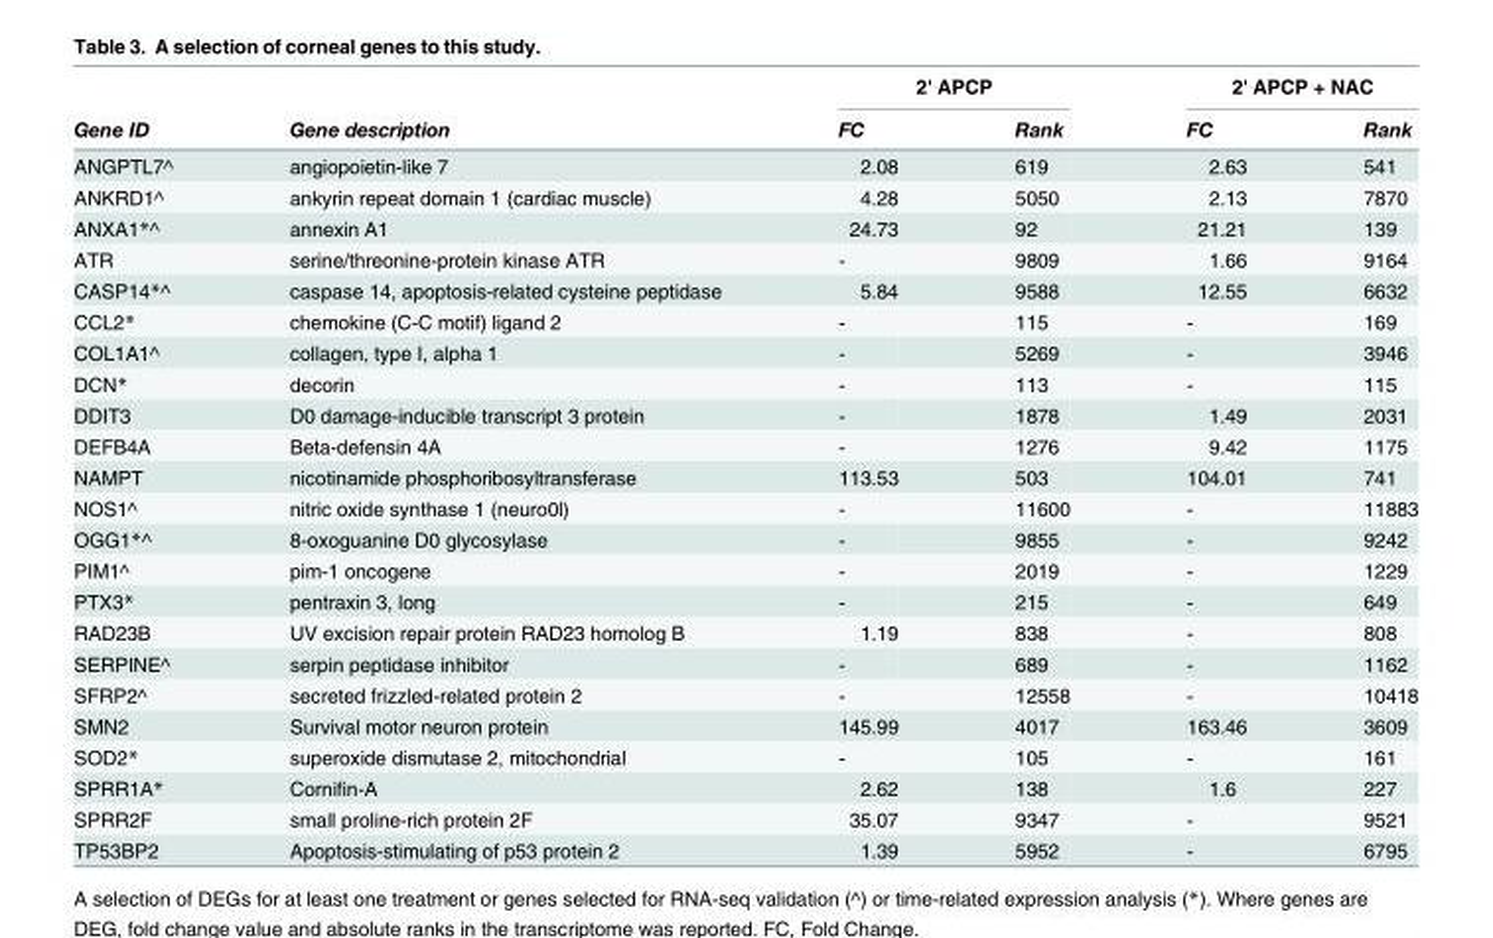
<table><thead><tr><td rowspan="2">Gene ID</td><td rowspan="2">Gene description</td><td colspan="2">2&#x27; APCP</td><td colspan="2">2&#x27; APCP + NAC</td></tr><tr><td>FC</td><td>Rank</td><td>FC</td><td>Rank</td></tr></thead><tbody><tr><td>ANGPTL7^</td><td>angiopoietin-like 7</td><td>2.08</td><td>619</td><td>2.63</td><td>541</td></tr><tr><td>ANKRD1^</td><td>ankyrin repeat domain 1 (cardiac muscle)</td><td>4.28</td><td>5050</td><td>2.13</td><td>7870</td></tr><tr><td>ANXA1*^</td><td>annexin A1</td><td>24.73</td><td>92</td><td>21.21</td><td>139</td></tr><tr><td>ATR</td><td>serine/threonine-protein kinase ATR</td><td>-</td><td>9809</td><td>1.66</td><td>9164</td></tr><tr><td>CASP14*^</td><td>caspase 14, apoptosis-related cysteine peptidase</td><td>5.84</td><td>9588</td><td>12.55</td><td>6632</td></tr><tr><td>CCL2*</td><td>chemokine (C-C motif) ligand 2</td><td>-</td><td>115</td><td>-</td><td>169</td></tr><tr><td>COL1A1^</td><td>collagen, type I, alpha 1</td><td>-</td><td>5269</td><td>-</td><td>3946</td></tr><tr><td>DCN*</td><td>decorin</td><td>-</td><td>113</td><td>-</td><td>115</td></tr><tr><td>DDIT3</td><td>D0 damage-inducible transcript 3 protein</td><td>-</td><td>1878</td><td>1.49</td><td>2031</td></tr><tr><td>DEFB4A</td><td>Beta-defensin 4A</td><td>-</td><td>1276</td><td>9.42</td><td>1175</td></tr><tr><td>NAMPT</td><td>nicotinamide phosphoribosyltransferase</td><td>113.53</td><td>503</td><td>104.01</td><td>741</td></tr><tr><td>NOS1^</td><td>nitric oxide synthase 1 (neuro0l)</td><td>-</td><td>11600</td><td>-</td><td>11883</td></tr><tr><td>OGG1*^</td><td>8-oxoguanine D0 glycosylase</td><td>-</td><td>9855</td><td>-</td><td>9242</td></tr><tr><td>PIM1^</td><td>pim-1 oncogene</td><td>-</td><td>2019</td><td>-</td><td>1229</td></tr><tr><td>PTX3*</td><td>pentraxin 3, long</td><td>-</td><td>215</td><td>-</td><td>649</td></tr><tr><td>RAD23B</td><td>UV excision repair protein RAD23 homolog B</td><td>1.19</td><td>838</td><td>-</td><td>808</td></tr><tr><td>SERPINE^</td><td>serpin peptidase inhibitor</td><td>-</td><td>689</td><td>-</td><td>1162</td></tr><tr><td>SFRP2^</td><td>secreted frizzled-related protein 2</td><td>-</td><td>12558</td><td>-</td><td>10418</td></tr><tr><td>SMN2</td><td>Survival motor neuron protein</td><td>145.99</td><td>4017</td><td>163.46</td><td>3609</td></tr><tr><td>SOD2*</td><td>superoxide dismutase 2, mitochondrial</td><td>-</td><td>105</td><td>-</td><td>161</td></tr><tr><td>SPRR1A*</td><td>Cornifin-A</td><td>2.62</td><td>138</td><td>1.6</td><td>227</td></tr><tr><td>SPRR2F</td><td>small proline-rich protein 2F</td><td>35.07</td><td>9347</td><td>-</td><td>9521</td></tr><tr><td>TP53BP2</td><td>Apoptosis-stimulating of p53 protein 2</td><td>1.39</td><td>5952</td><td>-</td><td>6795</td></tr></tbody></table>